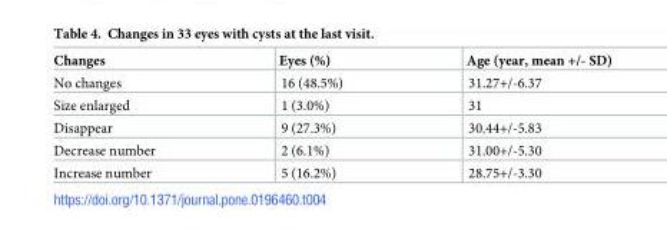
<table><thead><tr><td>Changes</td><td>Eyes (%)</td><td>Age (year, mean +/- SD)</td></tr></thead><tbody><tr><td>No changes</td><td>16 (48.5%)</td><td>31.27+/-6.37</td></tr><tr><td>Size enlarged</td><td>1 (3.0%)</td><td>31</td></tr><tr><td>Disappear</td><td>9 (27.3%)</td><td>30.44+/-5.83</td></tr><tr><td>Decrease number</td><td>2 (6.1%)</td><td>31.00+/-5.30</td></tr><tr><td>Increase number</td><td>5 (16.2%)</td><td>28.75+/-3.30</td></tr></tbody></table>